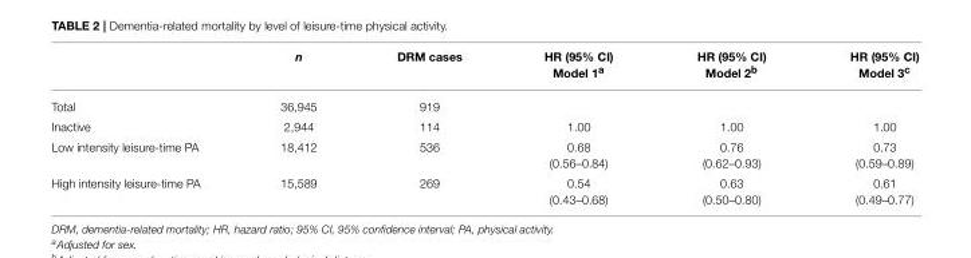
<table><thead><tr><td></td><td>n</td><td>DRM cases</td><td>HR (95% CI) Model 1<sup>a</sup></td><td>HR (95% CI) Model 2<sup>b</sup></td><td>HR (95% CI) Model 3<sup>c</sup></td></tr></thead><tbody><tr><td>Total</td><td>36,945</td><td>919</td><td></td><td></td><td></td></tr><tr><td>Inactive</td><td>2,944</td><td>114</td><td>1.00</td><td>1.00</td><td>1.00</td></tr><tr><td>Low intensity leisure-time PA</td><td>18,412</td><td>536</td><td>0.68 (0.56–0.84)</td><td>0.76 (0.62–0.93)</td><td>0.73 (0.59–0.89)</td></tr><tr><td>High intensity leisure-time PA</td><td>15,589</td><td>269</td><td>0.54 (0.43–0.68)</td><td>0.63 (0.50–0.80)</td><td>0.61 (0.49–0.77)</td></tr></tbody></table>